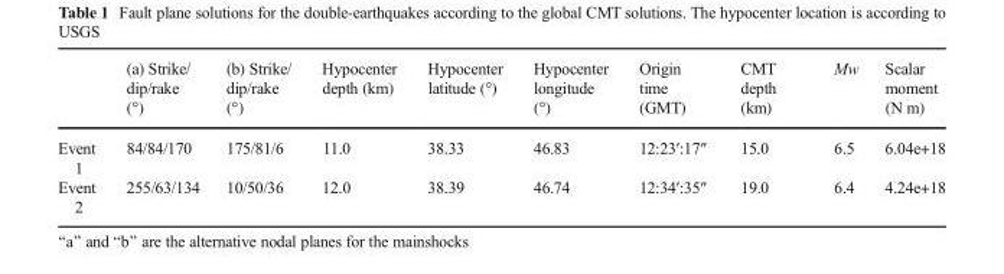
<table><thead><tr><td></td><td>(a) Strike/ dip/rake (°)</td><td>(b) Strike/ dip/rake (°)</td><td>Hypocenter depth (km)</td><td>Hypocenter latitude (°)</td><td>Hypocenter longitude (°)</td><td>Origin time (GMT)</td><td>CMT depth (km)</td><td>Mw</td><td>Scalar moment (N m)</td></tr></thead><tbody><tr><td>Event 1</td><td>84/84/170</td><td>175/81/6</td><td>11.0</td><td>38.33</td><td>46.83</td><td>12:23′:17″</td><td>15.0</td><td>6.5</td><td>6.04e+18</td></tr><tr><td>Event 2</td><td>255/63/134</td><td>10/50/36</td><td>12.0</td><td>38.39</td><td>46.74</td><td>12:34′:35″</td><td>19.0</td><td>6.4</td><td>4.24e+18</td></tr></tbody></table>